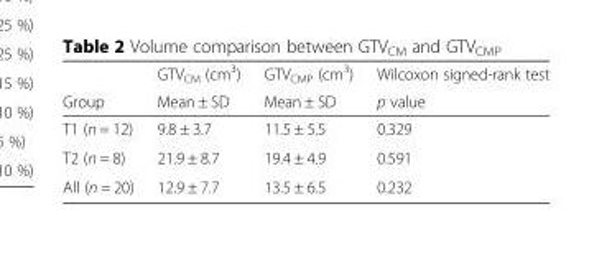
<table><thead><tr><td rowspan="2">Group</td><td rowspan="2">GTV<sub>CM</sub> (cm<sup>3</sup>) Mean ± SD</td><td rowspan="2">GTV<sub>CMP</sub> (cm<sup>3</sup>) Mean ± SD</td><td rowspan="2">Wilcoxon signed-rank test p value</td></tr><tr></tr></thead><tbody><tr><td>T1 (n = 12)</td><td>9.8 ± 3.7</td><td>11.5 ± 5.5</td><td>0.329</td></tr><tr><td>T2 (n = 8)</td><td>21.9 ± 8.7</td><td>19.4 ± 4.9</td><td>0.591</td></tr><tr><td>All (n = 20)</td><td>12.9 ± 7.7</td><td>13.5 ± 6.5</td><td>0.232</td></tr></tbody></table>